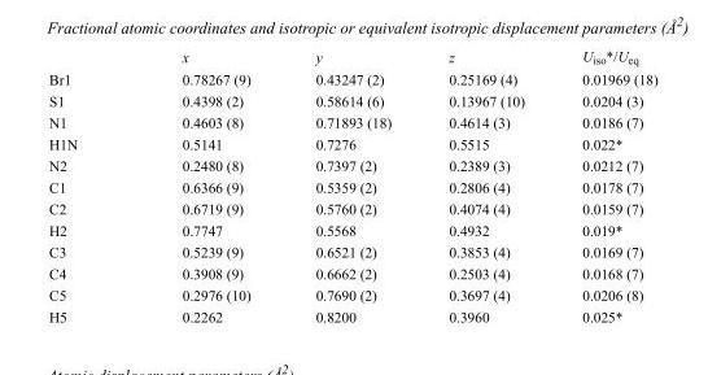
<table><thead><tr><td></td><td>x</td><td>y</td><td>z</td><td>U<sub>iso</sub>*/U<sub>eq</sub></td></tr></thead><tbody><tr><td>Br1</td><td>0.78267 (9)</td><td>0.43247 (2)</td><td>0.25169 (4)</td><td>0.01969 (18)</td></tr><tr><td>S1</td><td>0.4398 (2)</td><td>0.58614 (6)</td><td>0.13967 (10)</td><td>0.0204 (3)</td></tr><tr><td>N1</td><td>0.4603 (8)</td><td>0.71893 (18)</td><td>0.4614 (3)</td><td>0.0186 (7)</td></tr><tr><td>H1N</td><td>0.5141</td><td>0.7276</td><td>0.5515</td><td>0.022*</td></tr><tr><td>N2</td><td>0.2480 (8)</td><td>0.7397 (2)</td><td>0.2389 (3)</td><td>0.0212 (7)</td></tr><tr><td>C1</td><td>0.6366 (9)</td><td>0.5359 (2)</td><td>0.2806 (4)</td><td>0.0178 (7)</td></tr><tr><td>C2</td><td>0.6719 (9)</td><td>0.5760 (2)</td><td>0.4074 (4)</td><td>0.0159 (7)</td></tr><tr><td>H2</td><td>0.7747</td><td>0.5568</td><td>0.4932</td><td>0.019*</td></tr><tr><td>C3</td><td>0.5239 (9)</td><td>0.6521 (2)</td><td>0.3853 (4)</td><td>0.0169 (7)</td></tr><tr><td>C4</td><td>0.3908 (9)</td><td>0.6662 (2)</td><td>0.2503 (4)</td><td>0.0168 (7)</td></tr><tr><td>C5</td><td>0.2976 (10)</td><td>0.7690 (2)</td><td>0.3697 (4)</td><td>0.0206 (8)</td></tr><tr><td>H5</td><td>0.2262</td><td>0.8200</td><td>0.3960</td><td>0.025*</td></tr></tbody></table>